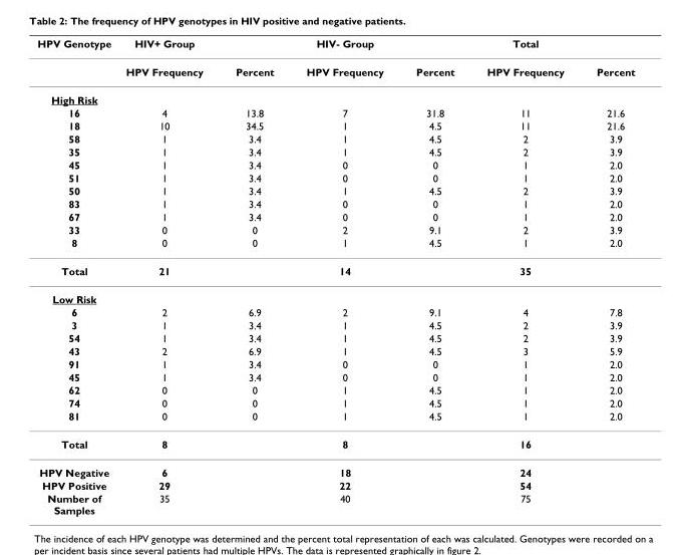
<table><thead><tr><td>HPV Genotype</td><td>HIV+ Group</td><td></td><td>HIV- Group</td><td></td><td>Total</td><td></td></tr></thead><tbody><tr><td></td><td>HPV Frequency</td><td>Percent</td><td>HPV Frequency</td><td>Percent</td><td>HPV Frequency</td><td>Percent</td></tr><tr><td colspan="7">High Risk</td></tr><tr><td>16</td><td>4</td><td>13.8</td><td>7</td><td>31.8</td><td>11</td><td>21.6</td></tr><tr><td>18</td><td>10</td><td>34.5</td><td>1</td><td>4.5</td><td>11</td><td>21.6</td></tr><tr><td>58</td><td>1</td><td>3.4</td><td>1</td><td>4.5</td><td>2</td><td>3.9</td></tr><tr><td>35</td><td>1</td><td>3.4</td><td>1</td><td>4.5</td><td>2</td><td>3.9</td></tr><tr><td>45</td><td>1</td><td>3.4</td><td>0</td><td>0</td><td>1</td><td>2.0</td></tr><tr><td>51</td><td>1</td><td>3.4</td><td>0</td><td>0</td><td>1</td><td>2.0</td></tr><tr><td>50</td><td>1</td><td>3.4</td><td>1</td><td>4.5</td><td>2</td><td>3.9</td></tr><tr><td>83</td><td>1</td><td>3.4</td><td>0</td><td>0</td><td>1</td><td>2.0</td></tr><tr><td>67</td><td>1</td><td>3.4</td><td>0</td><td>0</td><td>1</td><td>2.0</td></tr><tr><td>33</td><td>0</td><td>0</td><td>2</td><td>9.1</td><td>2</td><td>3.9</td></tr><tr><td>8</td><td>0</td><td>0</td><td>1</td><td>4.5</td><td>1</td><td>2.0</td></tr><tr><td>Total</td><td>21</td><td></td><td>14</td><td></td><td>35</td><td></td></tr><tr><td colspan="7">Low Risk</td></tr><tr><td>6</td><td>2</td><td>6.9</td><td>2</td><td>9.1</td><td>4</td><td>7.8</td></tr><tr><td>3</td><td>1</td><td>3.4</td><td>1</td><td>4.5</td><td>2</td><td>3.9</td></tr><tr><td>54</td><td>1</td><td>3.4</td><td>1</td><td>4.5</td><td>2</td><td>3.9</td></tr><tr><td>43</td><td>2</td><td>6.9</td><td>1</td><td>4.5</td><td>3</td><td>5.9</td></tr><tr><td>91</td><td>1</td><td>3.4</td><td>0</td><td>0</td><td>1</td><td>2.0</td></tr><tr><td>45</td><td>1</td><td>3.4</td><td>0</td><td>0</td><td>1</td><td>2.0</td></tr><tr><td>62</td><td>0</td><td>0</td><td>1</td><td>4.5</td><td>1</td><td>2.0</td></tr><tr><td>74</td><td>0</td><td>0</td><td>1</td><td>4.5</td><td>1</td><td>2.0</td></tr><tr><td>81</td><td>0</td><td>0</td><td>1</td><td>4.5</td><td>1</td><td>2.0</td></tr><tr><td>Total</td><td>8</td><td></td><td>8</td><td></td><td>16</td><td></td></tr><tr><td>HPV Negative</td><td>6</td><td></td><td>18</td><td></td><td>24</td><td></td></tr><tr><td>HPV Positive</td><td>29</td><td></td><td>22</td><td></td><td>54</td><td></td></tr><tr><td>Number of Samples</td><td>35</td><td></td><td>40</td><td></td><td>75</td><td></td></tr></tbody></table>